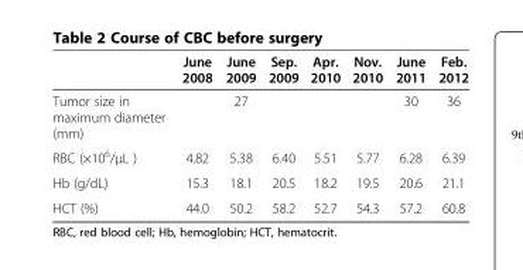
<table><thead><tr><td></td><td>June 2008</td><td>June 2009</td><td>Sep. 2009</td><td>Apr. 2010</td><td>Nov. 2010</td><td>June 2011</td><td>Feb. 2012</td></tr></thead><tbody><tr><td>Tumor size in maximum diameter (mm)</td><td></td><td>27</td><td></td><td></td><td></td><td>30</td><td>36</td></tr><tr><td>RBC (×10<sup>6</sup>/μL )</td><td>4.82</td><td>5.38</td><td>6.40</td><td>5.51</td><td>5.77</td><td>6.28</td><td>6.39</td></tr><tr><td>Hb (g/dL)</td><td>15.3</td><td>18.1</td><td>20.5</td><td>18.2</td><td>19.5</td><td>20.6</td><td>21.1</td></tr><tr><td>HCT (%)</td><td>44.0</td><td>50.2</td><td>58.2</td><td>52.7</td><td>54.3</td><td>57.2</td><td>60.8</td></tr></tbody></table>